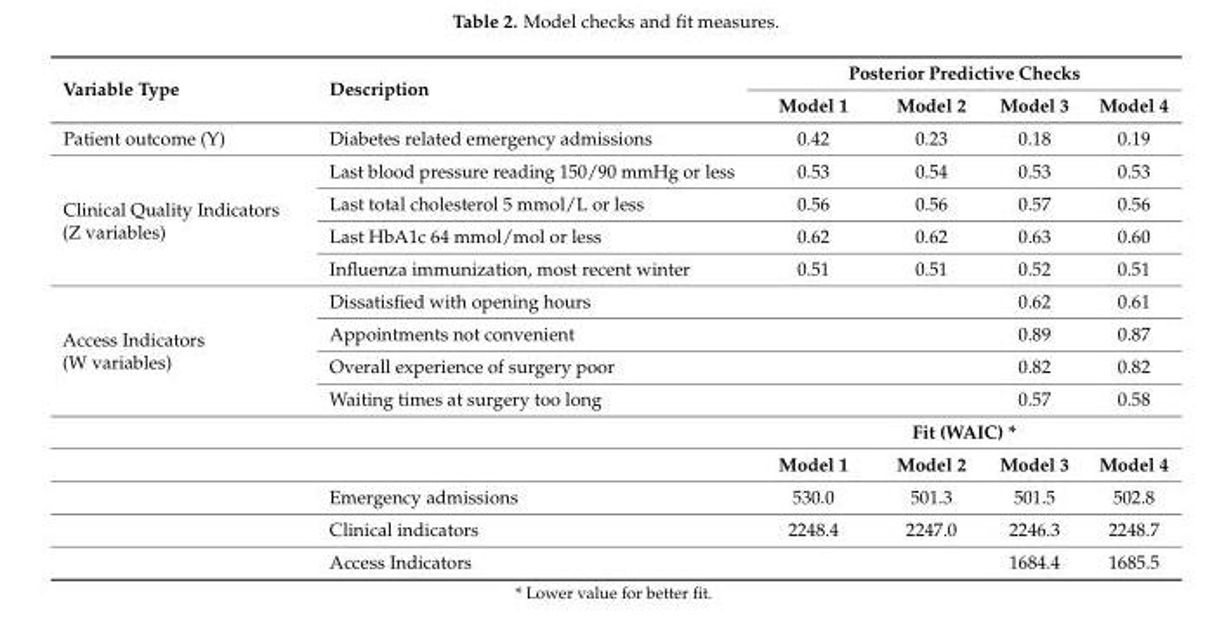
<table><thead><tr><td rowspan="2">Variable Type</td><td rowspan="2">Description</td><td colspan="4">Posterior Predictive Checks</td></tr><tr><td>Model 1</td><td>Model 2</td><td>Model 3</td><td>Model 4</td></tr></thead><tbody><tr><td>Patient outcome (Y)</td><td>Diabetes related emergency admissions</td><td>0.42</td><td>0.23</td><td>0.18</td><td>0.19</td></tr><tr><td rowspan="4">Clinical Quality Indicators (Z variables)</td><td>Last blood pressure reading 150/90 mmHg or less</td><td>0.53</td><td>0.54</td><td>0.53</td><td>0.53</td></tr><tr><td>Last total cholesterol 5 mmol/L or less</td><td>0.56</td><td>0.56</td><td>0.57</td><td>0.56</td></tr><tr><td>Last HbA1c 64 mmol/mol or less</td><td>0.62</td><td>0.62</td><td>0.63</td><td>0.60</td></tr><tr><td>Influenza immunization, most recent winter</td><td>0.51</td><td>0.51</td><td>0.52</td><td>0.51</td></tr><tr><td rowspan="9">Access Indicators (W variables)</td><td>Dissatisfied with opening hours</td><td></td><td></td><td>0.62</td><td>0.61</td></tr><tr><td>Appointments not convenient</td><td></td><td></td><td>0.89</td><td>0.87</td></tr><tr><td>Overall experience of surgery poor</td><td></td><td></td><td>0.82</td><td>0.82</td></tr><tr><td>Waiting times at surgery too long</td><td></td><td></td><td>0.57</td><td>0.58</td></tr><tr><td></td><td colspan="4">Fit (WAIC) *</td></tr><tr><td></td><td>Model 1</td><td>Model 2</td><td>Model 3</td><td>Model 4</td></tr><tr><td>Emergency admissions</td><td>530.0</td><td>501.3</td><td>501.5</td><td>502.8</td></tr><tr><td>Clinical indicators</td><td>2248.4</td><td>2247.0</td><td>2246.3</td><td>2248.7</td></tr><tr><td>Access Indicators</td><td></td><td></td><td>1684.4</td><td>1685.5</td></tr></tbody></table>